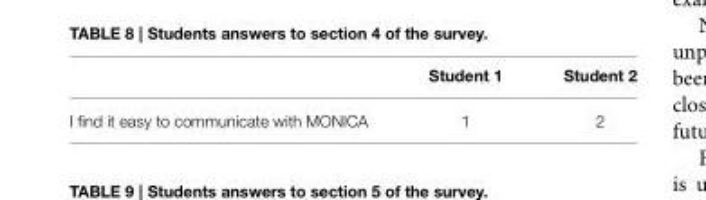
<table><thead><tr><td></td><td>Student 1</td><td>Student 2</td></tr></thead><tbody><tr><td>I find it easy to communicate with MONICA</td><td>1</td><td>2</td></tr></tbody></table>